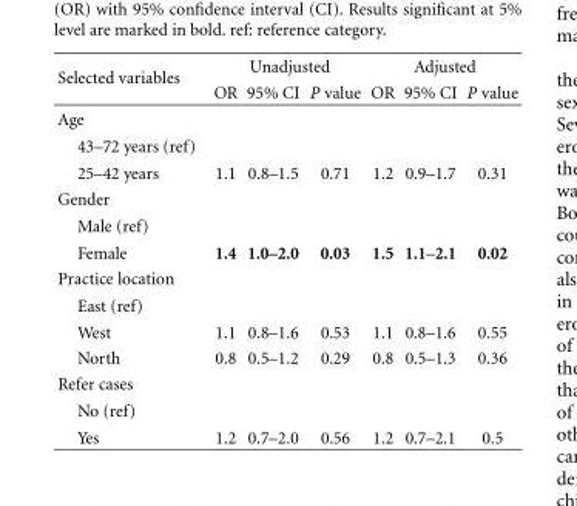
<table><thead><tr><td rowspan="2">Selected variables</td><td colspan="3">Unadjusted</td><td colspan="3">Adjusted</td></tr><tr><td>OR</td><td>95% CI</td><td>P value</td><td>OR</td><td>95% CI</td><td>P value</td></tr></thead><tbody><tr><td colspan="7">Age</td></tr><tr><td colspan="7">43–72 years (ref)</td></tr><tr><td>25–42 years</td><td>1.1</td><td>0.8–1.5</td><td>0.71</td><td>1.2</td><td>0.9–1.7</td><td>0.31</td></tr><tr><td colspan="7">Gender</td></tr><tr><td colspan="7">Male (ref)</td></tr><tr><td>Female</td><td>1.4</td><td>1.0–2.0</td><td>0.03</td><td>1.5</td><td>1.1–2.1</td><td>0.02</td></tr><tr><td colspan="7">Practice location</td></tr><tr><td colspan="7">East (ref)</td></tr><tr><td>West</td><td>1.1</td><td>0.8–1.6</td><td>0.53</td><td>1.1</td><td>0.8–1.6</td><td>0.55</td></tr><tr><td>North</td><td>0.8</td><td>0.5–1.2</td><td>0.29</td><td>0.8</td><td>0.5–1.3</td><td>0.36</td></tr><tr><td colspan="7">Refer cases</td></tr><tr><td colspan="7">No (ref)</td></tr><tr><td>Yes</td><td>1.2</td><td>0.7–2.0</td><td>0.56</td><td>1.2</td><td>0.7–2.1</td><td>0.5</td></tr></tbody></table>